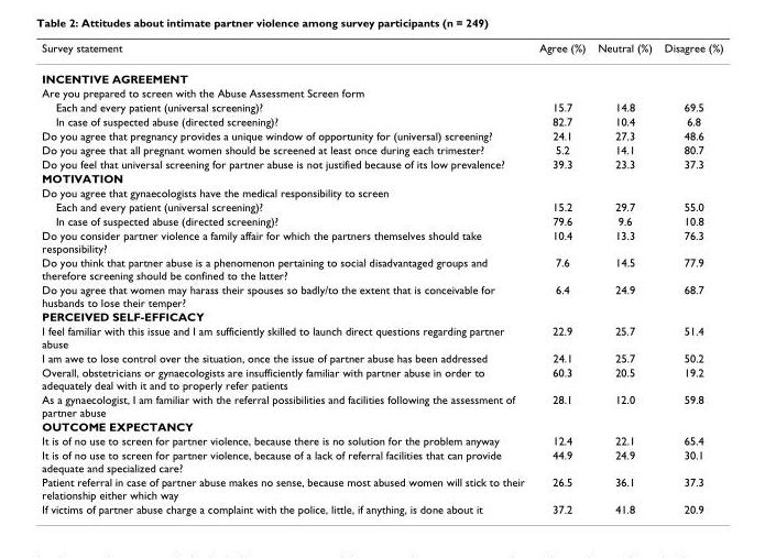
<table><thead><tr><td>Survey statement</td><td>Agree (%)</td><td>Neutral (%)</td><td>Disagree (%)</td></tr></thead><tbody><tr><td colspan="4">INCENTIVE AGREEMENT</td></tr><tr><td colspan="4">Are you prepared to screen with the Abuse Assessment Screen form</td></tr><tr><td>Each and every patient (universal screening)?</td><td>15.7</td><td>14.8</td><td>69.5</td></tr><tr><td>In case of suspected abuse (directed screening)?</td><td>82.7</td><td>10.4</td><td>6.8</td></tr><tr><td>Do you agree that pregnancy provides a unique window of opportunity for (universal) screening?</td><td>24.1</td><td>27.3</td><td>48.6</td></tr><tr><td>Do you agree that all pregnant women should be screened at least once during each trimester?</td><td>5.2</td><td>14.1</td><td>80.7</td></tr><tr><td>Do you feel that universal screening for partner abuse is not justified because of its low prevalence?</td><td>39.3</td><td>23.3</td><td>37.3</td></tr><tr><td colspan="4">MOTIVATION</td></tr><tr><td colspan="4">Do you agree that gynaecologists have the medical responsibility to screen</td></tr><tr><td>Each and every patient (universal screening)?</td><td>15.2</td><td>29.7</td><td>55.0</td></tr><tr><td>In case of suspected abuse (directed screening)?</td><td>79.6</td><td>9.6</td><td>10.8</td></tr><tr><td>Do you consider partner violence a family affair for which the partners themselves should take responsibility?</td><td>10.4</td><td>13.3</td><td>76.3</td></tr><tr><td>Do you think that partner abuse is a phenomenon pertaining to social disadvantaged groups and therefore screening should be confined to the latter?</td><td>7.6</td><td>14.5</td><td>77.9</td></tr><tr><td>Do you agree that women may harass their spouses so badly/to the extent that is conceivable for husbands to lose their temper?</td><td>6.4</td><td>24.9</td><td>68.7</td></tr><tr><td colspan="4">PERCEIVED SELF-EFFICACY</td></tr><tr><td>I feel familiar with this issue and I am sufficiently skilled to launch direct questions regarding partner abuse</td><td>22.9</td><td>25.7</td><td>51.4</td></tr><tr><td>I am awe to lose control over the situation, once the issue of partner abuse has been addressed</td><td>24.1</td><td>25.7</td><td>50.2</td></tr><tr><td>Overall, obstetricians or gynaecologists are insufficiently familiar with partner abuse in order to adequately deal with it and to properly refer patients</td><td>60.3</td><td>20.5</td><td>19.2</td></tr><tr><td>As a gynaecologist, I am familiar with the referral possibilities and facilities following the assessment of partner abuse</td><td>28.1</td><td>12.0</td><td>59.8</td></tr><tr><td colspan="4">OUTCOME EXPECTANCY</td></tr><tr><td>It is of no use to screen for partner violence, because there is no solution for the problem anyway</td><td>12.4</td><td>22.1</td><td>65.4</td></tr><tr><td>It is of no use to screen for partner violence, because of a lack of referral facilities that can provide adequate and specialized care?</td><td>44.9</td><td>24.9</td><td>30.1</td></tr><tr><td>Patient referral in case of partner abuse makes no sense, because most abused women will stick to their relationship either which way</td><td>26.5</td><td>36.1</td><td>37.3</td></tr><tr><td>If victims of partner abuse charge a complaint with the police, little, if anything, is done about it</td><td>37.2</td><td>41.8</td><td>20.9</td></tr></tbody></table>